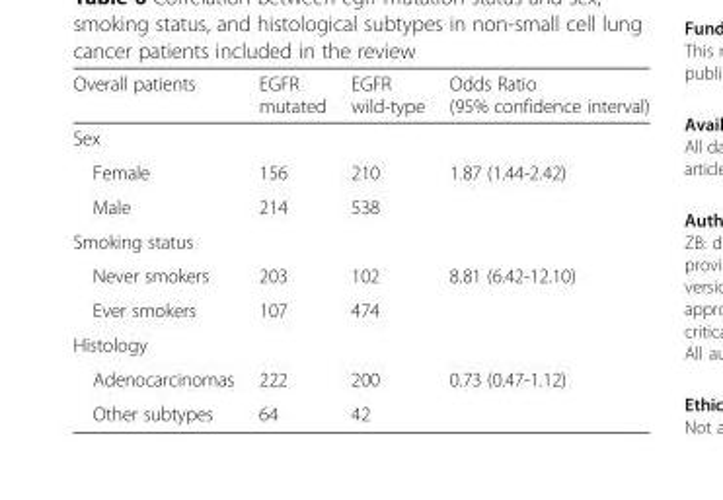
<table><thead><tr><td>Overall patients</td><td>EGFR mutated</td><td>EGFR wild-type</td><td>Odds Ratio (95% confidence interval)</td></tr></thead><tbody><tr><td colspan="4">Sex</td></tr><tr><td>Female</td><td>156</td><td>210</td><td>1.87 (1.44-2.42)</td></tr><tr><td>Male</td><td>214</td><td>538</td><td></td></tr><tr><td colspan="4">Smoking status</td></tr><tr><td>Never smokers</td><td>203</td><td>102</td><td>8.81 (6.42-12.10)</td></tr><tr><td>Ever smokers</td><td>107</td><td>474</td><td></td></tr><tr><td colspan="4">Histology</td></tr><tr><td>Adenocarcinomas</td><td>222</td><td>200</td><td>0.73 (0.47-1.12)</td></tr><tr><td>Other subtypes</td><td>64</td><td>42</td><td></td></tr></tbody></table>